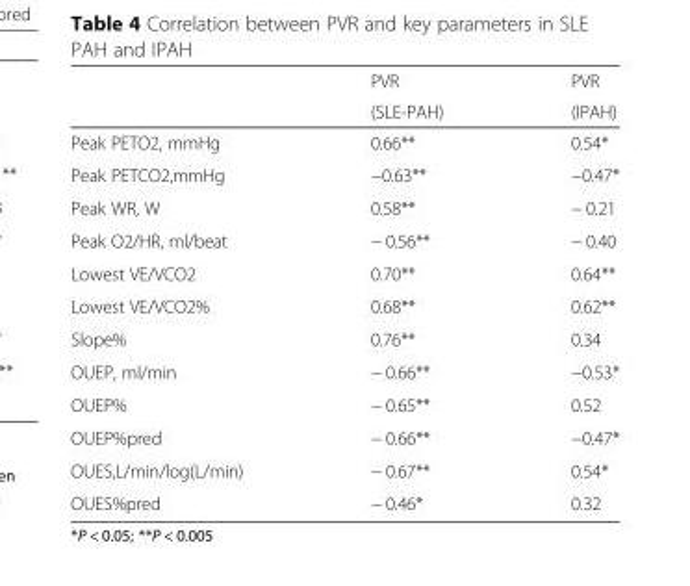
<table><thead><tr><td rowspan="2"></td><td rowspan="2">PVR (SLE-PAH)</td><td rowspan="2">PVR (IPAH)</td></tr><tr></tr></thead><tbody><tr><td>Peak PETO2, mmHg</td><td>0.66**</td><td>0.54*</td></tr><tr><td>Peak PETCO2,mmHg</td><td>−0.63**</td><td>−0.47*</td></tr><tr><td>Peak WR, W</td><td>0.58**</td><td>− 0.21</td></tr><tr><td>Peak O2/HR, ml/beat</td><td>− 0.56**</td><td>− 0.40</td></tr><tr><td>Lowest VE/VCO2</td><td>0.70**</td><td>0.64**</td></tr><tr><td>Lowest VE/VCO2%</td><td>0.68**</td><td>0.62**</td></tr><tr><td>Slope%</td><td>0.76**</td><td>0.34</td></tr><tr><td>OUEP, ml/min</td><td>− 0.66**</td><td>−0.53*</td></tr><tr><td>OUEP%</td><td>− 0.65**</td><td>0.52</td></tr><tr><td>OUEP%pred</td><td>− 0.66**</td><td>−0.47*</td></tr><tr><td>OUES,L/min/log(L/min)</td><td>− 0.67**</td><td>0.54*</td></tr><tr><td>OUES%pred</td><td>− 0.46*</td><td>0.32</td></tr></tbody></table>